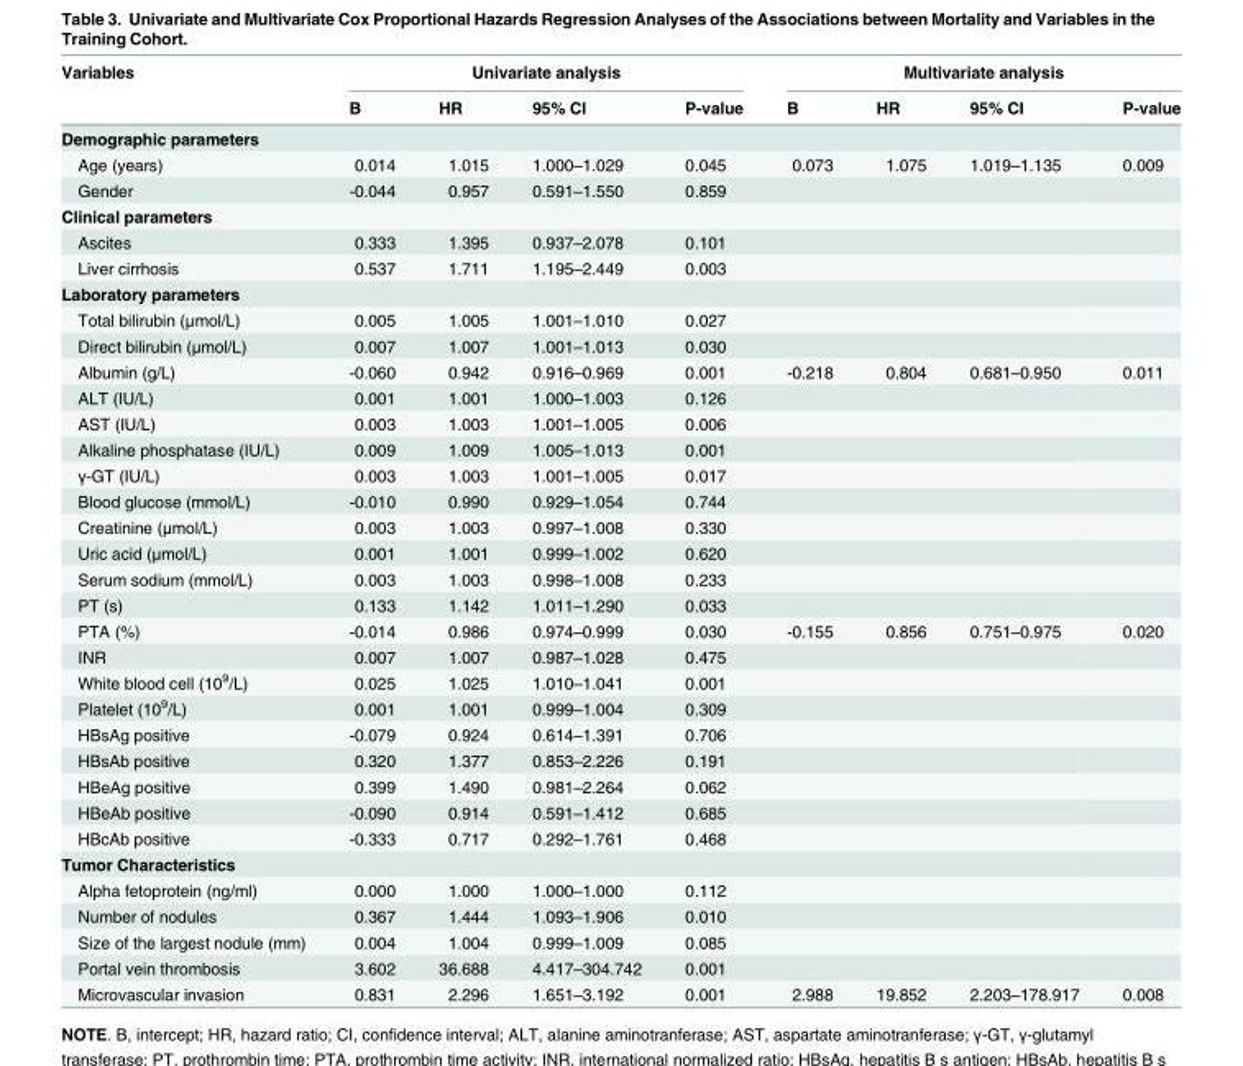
<table><thead><tr><td rowspan="2">Variables</td><td colspan="4">Univariate analysis</td><td colspan="4">Multivariate analysis</td></tr><tr><td>B</td><td>HR</td><td>95% CI</td><td>P-value</td><td>B</td><td>HR</td><td>95% CI</td><td>P-value</td></tr></thead><tbody><tr><td colspan="9">Demographic parameters</td></tr><tr><td>Age (years)</td><td>0.014</td><td>1.015</td><td>1.000–1.029</td><td>0.045</td><td>0.073</td><td>1.075</td><td>1.019–1.135</td><td>0.009</td></tr><tr><td>Gender</td><td>-0.044</td><td>0.957</td><td>0.591–1.550</td><td>0.859</td><td></td><td></td><td></td><td></td></tr><tr><td colspan="9">Clinical parameters</td></tr><tr><td>Ascites</td><td>0.333</td><td>1.395</td><td>0.937–2.078</td><td>0.101</td><td></td><td></td><td></td><td></td></tr><tr><td>Liver cirrhosis</td><td>0.537</td><td>1.711</td><td>1.195–2.449</td><td>0.003</td><td></td><td></td><td></td><td></td></tr><tr><td colspan="9">Laboratory parameters</td></tr><tr><td>Total bilirubin (μmol/L)</td><td>0.005</td><td>1.005</td><td>1.001–1.010</td><td>0.027</td><td></td><td></td><td></td><td></td></tr><tr><td>Direct bilirubin (μmol/L)</td><td>0.007</td><td>1.007</td><td>1.001–1.013</td><td>0.030</td><td></td><td></td><td></td><td></td></tr><tr><td>Albumin (g/L)</td><td>-0.060</td><td>0.942</td><td>0.916–0.969</td><td>0.001</td><td>-0.218</td><td>0.804</td><td>0.681–0.950</td><td>0.011</td></tr><tr><td>ALT (IU/L)</td><td>0.001</td><td>1.001</td><td>1.000–1.003</td><td>0.126</td><td></td><td></td><td></td><td></td></tr><tr><td>AST (IU/L)</td><td>0.003</td><td>1.003</td><td>1.001–1.005</td><td>0.006</td><td></td><td></td><td></td><td></td></tr><tr><td>Alkaline phosphatase (IU/L)</td><td>0.009</td><td>1.009</td><td>1.005–1.013</td><td>0.001</td><td></td><td></td><td></td><td></td></tr><tr><td>γ-GT (IU/L)</td><td>0.003</td><td>1.003</td><td>1.001–1.005</td><td>0.017</td><td></td><td></td><td></td><td></td></tr><tr><td>Blood glucose (mmol/L)</td><td>-0.010</td><td>0.990</td><td>0.929–1.054</td><td>0.744</td><td></td><td></td><td></td><td></td></tr><tr><td>Creatinine (μmol/L)</td><td>0.003</td><td>1.003</td><td>0.997–1.008</td><td>0.330</td><td></td><td></td><td></td><td></td></tr><tr><td>Uric acid (μmol/L)</td><td>0.001</td><td>1.001</td><td>0.999–1.002</td><td>0.620</td><td></td><td></td><td></td><td></td></tr><tr><td>Serum sodium (mmol/L)</td><td>0.003</td><td>1.003</td><td>0.998–1.008</td><td>0.233</td><td></td><td></td><td></td><td></td></tr><tr><td>PT (s)</td><td>0.133</td><td>1.142</td><td>1.011–1.290</td><td>0.033</td><td></td><td></td><td></td><td></td></tr><tr><td>PTA (%)</td><td>-0.014</td><td>0.986</td><td>0.974–0.999</td><td>0.030</td><td>-0.155</td><td>0.856</td><td>0.751–0.975</td><td>0.020</td></tr><tr><td>INR</td><td>0.007</td><td>1.007</td><td>0.987–1.028</td><td>0.475</td><td></td><td></td><td></td><td></td></tr><tr><td>White blood cell (10<sup>9</sup>/L)</td><td>0.025</td><td>1.025</td><td>1.010–1.041</td><td>0.001</td><td></td><td></td><td></td><td></td></tr><tr><td>Platelet (10<sup>9</sup>/L)</td><td>0.001</td><td>1.001</td><td>0.999–1.004</td><td>0.309</td><td></td><td></td><td></td><td></td></tr><tr><td>HBsAg positive</td><td>-0.079</td><td>0.924</td><td>0.614–1.391</td><td>0.706</td><td></td><td></td><td></td><td></td></tr><tr><td>HBsAb positive</td><td>0.320</td><td>1.377</td><td>0.853–2.226</td><td>0.191</td><td></td><td></td><td></td><td></td></tr><tr><td>HBeAg positive</td><td>0.399</td><td>1.490</td><td>0.981–2.264</td><td>0.062</td><td></td><td></td><td></td><td></td></tr><tr><td>HBeAb positive</td><td>-0.090</td><td>0.914</td><td>0.591–1.412</td><td>0.685</td><td></td><td></td><td></td><td></td></tr><tr><td>HBcAb positive</td><td>-0.333</td><td>0.717</td><td>0.292–1.761</td><td>0.468</td><td></td><td></td><td></td><td></td></tr><tr><td colspan="9">Tumor Characteristics</td></tr><tr><td>Alpha fetoprotein (ng/ml)</td><td>0.000</td><td>1.000</td><td>1.000–1.000</td><td>0.112</td><td></td><td></td><td></td><td></td></tr><tr><td>Number of nodules</td><td>0.367</td><td>1.444</td><td>1.093–1.906</td><td>0.010</td><td></td><td></td><td></td><td></td></tr><tr><td>Size of the largest nodule (mm)</td><td>0.004</td><td>1.004</td><td>0.999–1.009</td><td>0.085</td><td></td><td></td><td></td><td></td></tr><tr><td>Portal vein thrombosis</td><td>3.602</td><td>36.688</td><td>4.417–304.742</td><td>0.001</td><td></td><td></td><td></td><td></td></tr><tr><td>Microvascular invasion</td><td>0.831</td><td>2.296</td><td>1.651–3.192</td><td>0.001</td><td>2.988</td><td>19.852</td><td>2.203–178.917</td><td>0.008</td></tr></tbody></table>